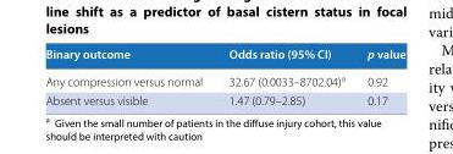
<table><thead><tr><td>Binary outcome</td><td>Odds ratio (95% CI)</td><td>p value</td></tr></thead><tbody><tr><td>Any compression versus normal</td><td>32.67 (0.0033–8702.04)<sup>a</sup></td><td>0.92</td></tr><tr><td>Absent versus visible</td><td>1.47 (0.79–2.85)</td><td>0.17</td></tr></tbody></table>